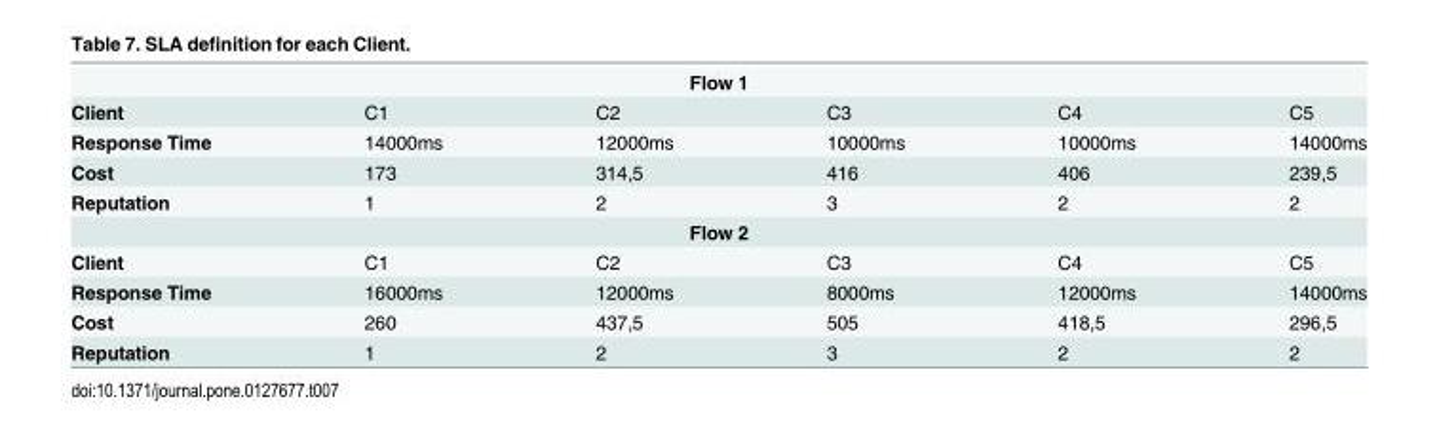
<table><tbody><tr><td colspan="6">Flow 1</td></tr><tr><td>Client</td><td>C1</td><td>C2</td><td>C3</td><td>C4</td><td>C5</td></tr><tr><td>Response Time</td><td>14000ms</td><td>12000ms</td><td>10000ms</td><td>10000ms</td><td>14000ms</td></tr><tr><td>Cost</td><td>173</td><td>314,5</td><td>416</td><td>406</td><td>239,5</td></tr><tr><td>Reputation</td><td>1</td><td>2</td><td>3</td><td>2</td><td>2</td></tr><tr><td colspan="6">Flow 2</td></tr><tr><td>Client</td><td>C1</td><td>C2</td><td>C3</td><td>C4</td><td>C5</td></tr><tr><td>Response Time</td><td>16000ms</td><td>12000ms</td><td>8000ms</td><td>12000ms</td><td>14000ms</td></tr><tr><td>Cost</td><td>260</td><td>437,5</td><td>505</td><td>418,5</td><td>296,5</td></tr><tr><td>Reputation</td><td>1</td><td>2</td><td>3</td><td>2</td><td>2</td></tr></tbody></table>